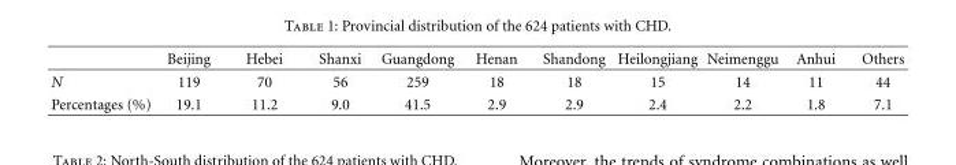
<table><thead><tr><td></td><td>Beijing</td><td>Hebei</td><td>Shanxi</td><td>Guangdong</td><td>Henan</td><td>Shandong</td><td>Heilongjiang</td><td>Neimenggu</td><td>Anhui</td><td>Others</td></tr></thead><tbody><tr><td>N</td><td>119</td><td>70</td><td>56</td><td>259</td><td>18</td><td>18</td><td>15</td><td>14</td><td>11</td><td>44</td></tr><tr><td>Percentages (%)</td><td>19.1</td><td>11.2</td><td>9.0</td><td>41.5</td><td>2.9</td><td>2.9</td><td>2.4</td><td>2.2</td><td>1.8</td><td>7.1</td></tr></tbody></table>